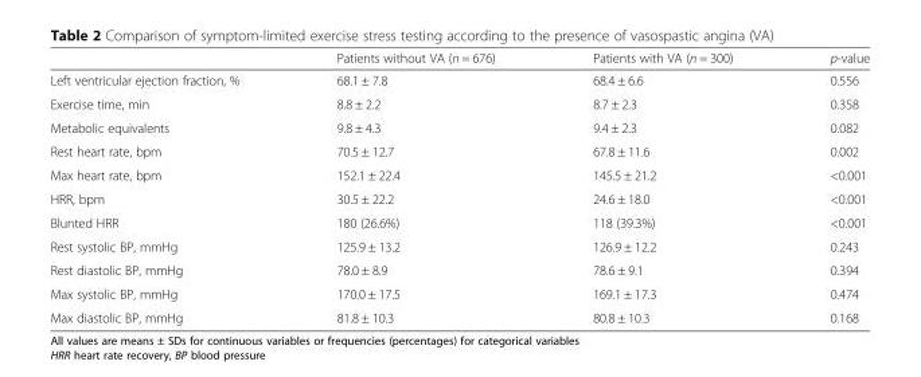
<table><thead><tr><td></td><td>Patients without VA (n = 676)</td><td>Patients with VA (n = 300)</td><td>p-value</td></tr></thead><tbody><tr><td>Left ventricular ejection fraction, %</td><td>68.1 ± 7.8</td><td>68.4 ± 6.6</td><td>0.556</td></tr><tr><td>Exercise time, min</td><td>8.8 ± 2.2</td><td>8.7 ± 2.3</td><td>0.358</td></tr><tr><td>Metabolic equivalents</td><td>9.8 ± 4.3</td><td>9.4 ± 2.3</td><td>0.082</td></tr><tr><td>Rest heart rate, bpm</td><td>70.5 ± 12.7</td><td>67.8 ± 11.6</td><td>0.002</td></tr><tr><td>Max heart rate, bpm</td><td>152.1 ± 22.4</td><td>145.5 ± 21.2</td><td>&lt;0.001</td></tr><tr><td>HRR, bpm</td><td>30.5 ± 22.2</td><td>24.6 ± 18.0</td><td>&lt;0.001</td></tr><tr><td>Blunted HRR</td><td>180 (26.6%)</td><td>118 (39.3%)</td><td>&lt;0.001</td></tr><tr><td>Rest systolic BP, mmHg</td><td>125.9 ± 13.2</td><td>126.9 ± 12.2</td><td>0.243</td></tr><tr><td>Rest diastolic BP, mmHg</td><td>78.0 ± 8.9</td><td>78.6 ± 9.1</td><td>0.394</td></tr><tr><td>Max systolic BP, mmHg</td><td>170.0 ± 17.5</td><td>169.1 ± 17.3</td><td>0.474</td></tr><tr><td>Max diastolic BP, mmHg</td><td>81.8 ± 10.3</td><td>80.8 ± 10.3</td><td>0.168</td></tr></tbody></table>